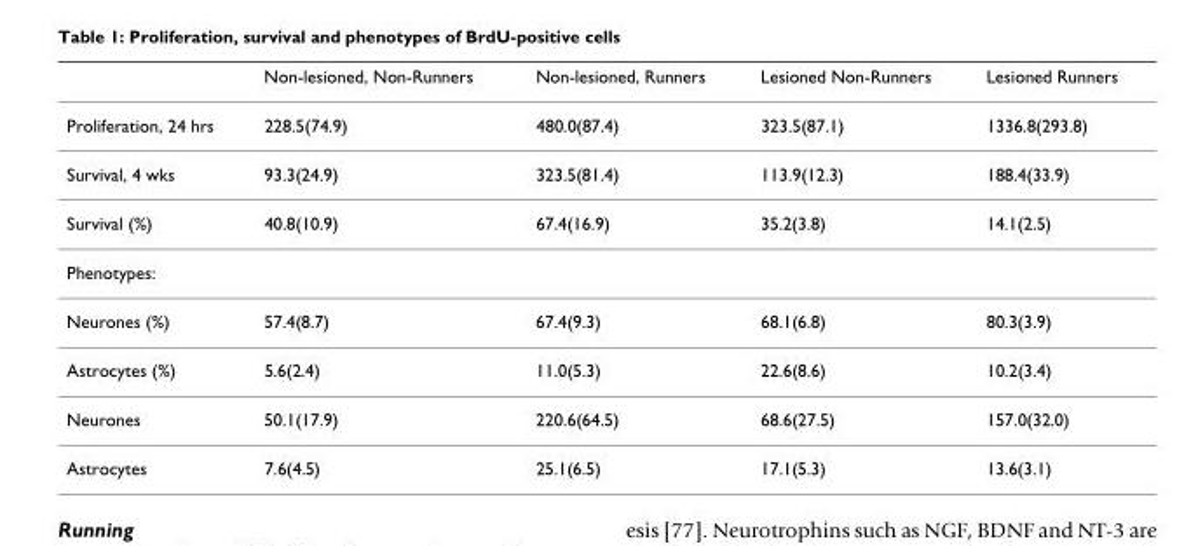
<table><thead><tr><td></td><td>Non-lesioned, Non-Runners</td><td>Non-lesioned, Runners</td><td>Lesioned Non-Runners</td><td>Lesioned Runners</td></tr></thead><tbody><tr><td>Proliferation, 24 hrs</td><td>228.5(74.9)</td><td>480.0(87.4)</td><td>323.5(87.1)</td><td>1336.8(293.8)</td></tr><tr><td>Survival, 4 wks</td><td>93.3(24.9)</td><td>323.5(81.4)</td><td>113.9(12.3)</td><td>188.4(33.9)</td></tr><tr><td>Survival (%)</td><td>40.8(10.9)</td><td>67.4(16.9)</td><td>35.2(3.8)</td><td>14.1(2.5)</td></tr><tr><td colspan="5">Phenotypes:</td></tr><tr><td>Neurones (%)</td><td>57.4(8.7)</td><td>67.4(9.3)</td><td>68.1(6.8)</td><td>80.3(3.9)</td></tr><tr><td>Astrocytes (%)</td><td>5.6(2.4)</td><td>11.0(5.3)</td><td>22.6(8.6)</td><td>10.2(3.4)</td></tr><tr><td>Neurones</td><td>50.1(17.9)</td><td>220.6(64.5)</td><td>68.6(27.5)</td><td>157.0(32.0)</td></tr><tr><td>Astrocytes</td><td>7.6(4.5)</td><td>25.1(6.5)</td><td>17.1(5.3)</td><td>13.6(3.1)</td></tr></tbody></table>